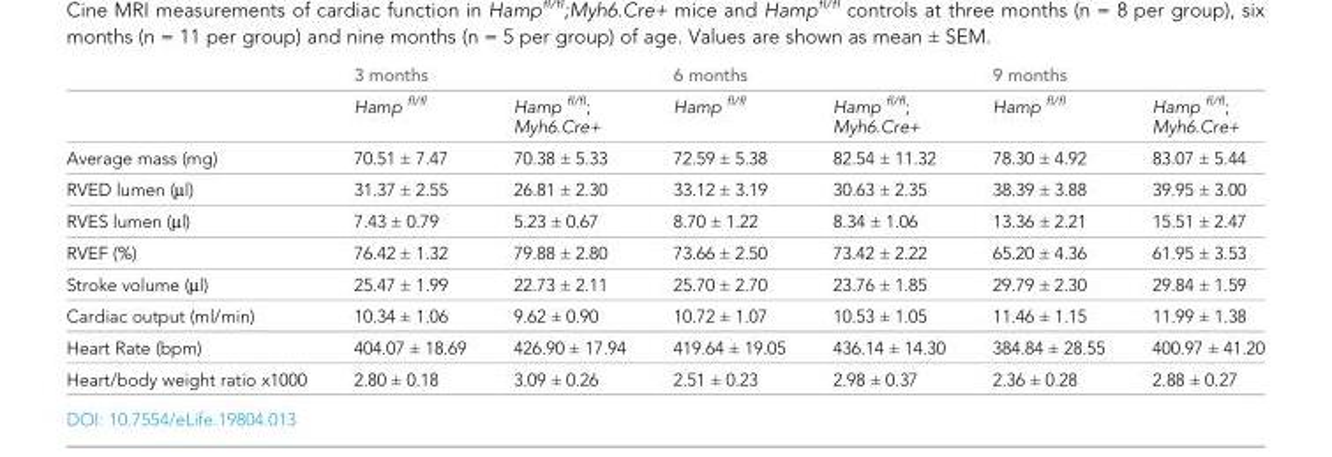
<table><thead><tr><td rowspan="2"></td><td colspan="2">3 months</td><td colspan="2">6 months</td><td colspan="2">9 months</td></tr><tr><td>Hamp <sup>fl/fl</sup></td><td>Hamp <sup>fl/fl</sup>; Myh6.Cre+</td><td>Hamp <sup>fl/fl</sup></td><td>Hamp <sup>fl/fl</sup>; Myh6.Cre+</td><td>Hamp <sup>fl/fl</sup></td><td>Hamp <sup>fl/fl</sup>; Myh6.Cre+</td></tr></thead><tbody><tr><td>Average mass (mg)</td><td>70.51 ± 7.47</td><td>70.38 ± 5.33</td><td>72.59 ± 5.38</td><td>82.54 ± 11.32</td><td>78.30 ± 4.92</td><td>83.07 ± 5.44</td></tr><tr><td>RVED lumen (µl)</td><td>31.37 ± 2.55</td><td>26.81 ± 2.30</td><td>33.12 ± 3.19</td><td>30.63 ± 2.35</td><td>38.39 ± 3.88</td><td>39.95 ± 3.00</td></tr><tr><td>RVES lumen (µl)</td><td>7.43 ± 0.79</td><td>5.23 ± 0.67</td><td>8.70 ± 1.22</td><td>8.34 ± 1.06</td><td>13.36 ± 2.21</td><td>15.51 ± 2.47</td></tr><tr><td>RVEF (%)</td><td>76.42 ± 1.32</td><td>79.88 ± 2.80</td><td>73.66 ± 2.50</td><td>73.42 ± 2.22</td><td>65.20 ± 4.36</td><td>61.95 ± 3.53</td></tr><tr><td>Stroke volume (µl)</td><td>25.47 ± 1.99</td><td>22.73 ± 2.11</td><td>25.70 ± 2.70</td><td>23.76 ± 1.85</td><td>29.79 ± 2.30</td><td>29.84 ± 1.59</td></tr><tr><td>Cardiac output (ml/min)</td><td>10.34 ± 1.06</td><td>9.62 ± 0.90</td><td>10.72 ± 1.07</td><td>10.53 ± 1.05</td><td>11.46 ± 1.15</td><td>11.99 ± 1.38</td></tr><tr><td>Heart Rate (bpm)</td><td>404.07 ± 18.69</td><td>426.90 ± 17.94</td><td>419.64 ± 19.05</td><td>436.14 ± 14.30</td><td>384.84 ± 28.55</td><td>400.97 ± 41.20</td></tr><tr><td>Heart/body weight ratio x1000</td><td>2.80 ± 0.18</td><td>3.09 ± 0.26</td><td>2.51 ± 0.23</td><td>2.98 ± 0.37</td><td>2.36 ± 0.28</td><td>2.88 ± 0.27</td></tr></tbody></table>